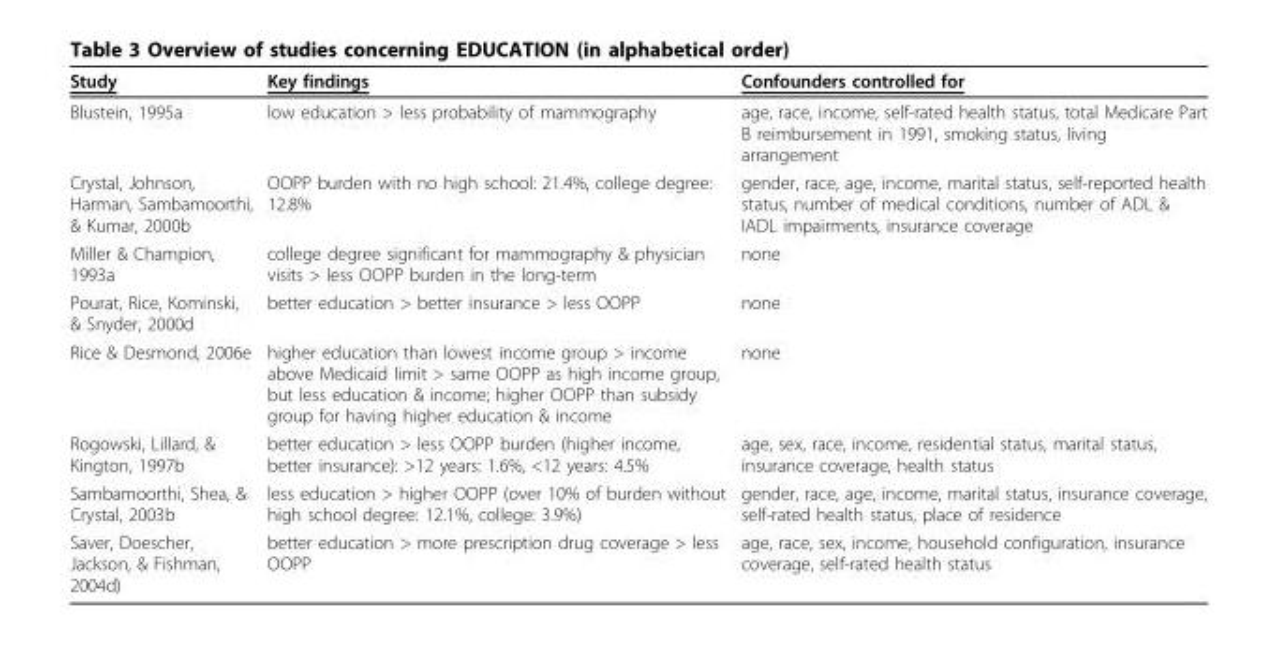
<table><thead><tr><td>Study</td><td>Key findings</td><td>Confounders controlled for</td></tr></thead><tbody><tr><td>Blustein, 1995a</td><td>low education &gt; less probability of mammography</td><td>age, race, income, self-rated health status, total Medicare Part B reimbursement in 1991, smoking status, living arrangement</td></tr><tr><td>Crystal, Johnson, Harman, Sambamoorthi, &amp; Kumar, 2000b</td><td>OOPP burden with no high school: 21.4%, college degree: 12.8%</td><td>gender, race, age, income, marital status, self-reported health status, number of medical conditions, number of ADL &amp; IADL impairments, insurance coverage</td></tr><tr><td>Miller &amp; Champion, 1993a</td><td>college degree significant for mammography &amp; physician visits &gt; less OOPP burden in the long-term</td><td>none</td></tr><tr><td>Pourat, Rice, Kominski, &amp; Snyder, 2000d</td><td>better education &gt; better insurance &gt; less OOPP</td><td>none</td></tr><tr><td>Rice &amp; Desmond, 2006e</td><td>higher education than lowest income group &gt; income above Medicaid limit &gt; same OOPP as high income group, but less education &amp; income; higher OOPP than subsidy group for having higher education &amp; income</td><td>none</td></tr><tr><td>Rogowski, Lillard, &amp; Kington, 1997b</td><td>better education &gt; less OOPP burden (higher income, better insurance): &gt;12 years: 1.6%, &lt;12 years: 4.5%</td><td>age, sex, race, income, residential status, marital status, insurance coverage, health status</td></tr><tr><td>Sambamoorthi, Shea, &amp; Crystal, 2003b</td><td>less education &gt; higher OOPP (over 10% of burden without high school degree: 12.1%, college: 3.9%)</td><td>gender, race, age, income, marital status, insurance coverage, self-rated health status, place of residence</td></tr><tr><td>Saver, Doescher, Jackson, &amp; Fishman, 2004d)</td><td>better education &gt; more prescription drug coverage &gt; less OOPP</td><td>age, race, sex, income, household configuration, insurance coverage, self-rated health status</td></tr></tbody></table>